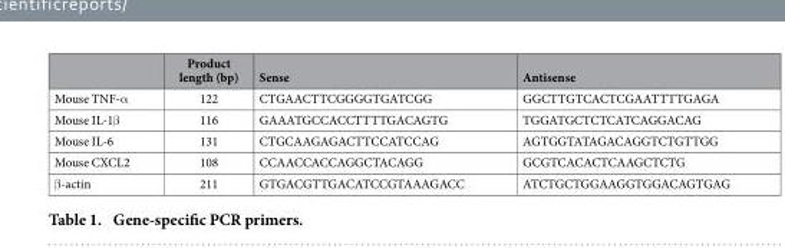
<table><thead><tr><td></td><td>Product length (bp)</td><td>Sense</td><td>Antisense</td></tr></thead><tbody><tr><td>Mouse TNF-α</td><td>122</td><td>CTGAACTTCGGGGTGATCGG</td><td>GGCTTGTCACTCGAATTTTGAGA</td></tr><tr><td>Mouse IL-1β</td><td>116</td><td>GAAATGCCACCTTTTGACAGTG</td><td>TGGATGCTCTCATCAGGACAG</td></tr><tr><td>Mouse IL-6</td><td>131</td><td>CTGCAAGAGACTTCCATCCAG</td><td>AGTGGTATAGACAGGTCTGTTGG</td></tr><tr><td>Mouse CXCL2</td><td>108</td><td>CCAACCACCAGGCTACAGG</td><td>GCGTCACACTCAAGCTCTG</td></tr><tr><td>β -actin</td><td>211</td><td>GTGACGTTGACATCCGTAAAGACC</td><td>ATCTGCTGGAAGGTGGACAGTGAG</td></tr></tbody></table>